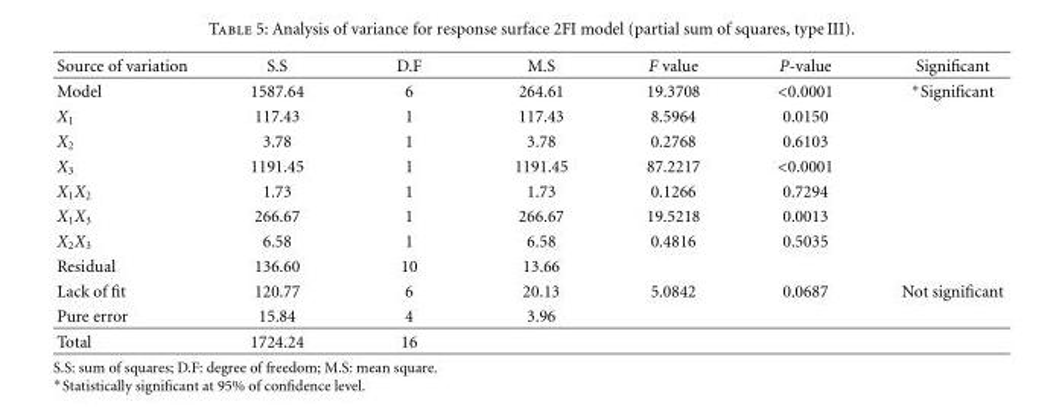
<table><thead><tr><td>Source of variation</td><td>S.S</td><td>D.F</td><td>M.S</td><td>F value</td><td>P-value</td><td>Significant</td></tr></thead><tbody><tr><td>Model</td><td>1587.64</td><td>6</td><td>264.61</td><td>19.3708</td><td>&lt;0.0001</td><td>∗Significant</td></tr><tr><td>X<sub>1</sub></td><td>117.43</td><td>1</td><td>117.43</td><td>8.5964</td><td>0.0150</td><td></td></tr><tr><td>X<sub>2</sub></td><td>3.78</td><td>1</td><td>3.78</td><td>0.2768</td><td>0.6103</td><td></td></tr><tr><td>X<sub>3</sub></td><td>1191.45</td><td>1</td><td>1191.45</td><td>87.2217</td><td>&lt;0.0001</td><td></td></tr><tr><td>X<sub>1</sub>X<sub>2</sub></td><td>1.73</td><td>1</td><td>1.73</td><td>0.1266</td><td>0.7294</td><td></td></tr><tr><td>X<sub>1</sub>X<sub>3</sub></td><td>266.67</td><td>1</td><td>266.67</td><td>19.5218</td><td>0.0013</td><td></td></tr><tr><td>X<sub>2</sub>X<sub>3</sub></td><td>6.58</td><td>1</td><td>6.58</td><td>0.4816</td><td>0.5035</td><td></td></tr><tr><td>Residual</td><td>136.60</td><td>10</td><td>13.66</td><td></td><td></td><td></td></tr><tr><td>Lack of fit</td><td>120.77</td><td>6</td><td>20.13</td><td>5.0842</td><td>0.0687</td><td>Not significant</td></tr><tr><td>Pure error</td><td>15.84</td><td>4</td><td>3.96</td><td></td><td></td><td></td></tr><tr><td>Total</td><td>1724.24</td><td>16</td><td></td><td></td><td></td><td></td></tr></tbody></table>